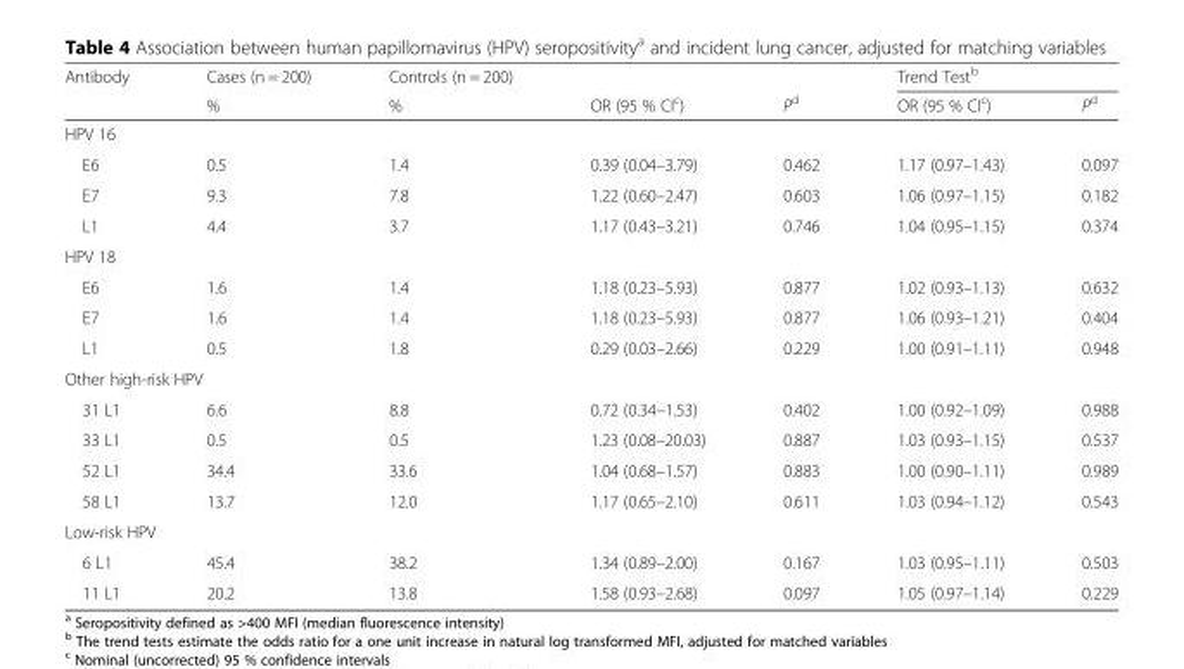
<table><thead><tr><td rowspan="2">Antibody</td><td rowspan="2">Cases (n = 200) %</td><td rowspan="2">Controls (n = 200) %</td><td rowspan="2">OR (95 % CI<sup>c</sup>)</td><td rowspan="2">P<sup>d</sup></td><td colspan="2">Trend Test<sup>b</sup></td></tr><tr><td>OR (95 % CI<sup>c</sup>)</td><td>P<sup>d</sup></td></tr></thead><tbody><tr><td colspan="7">HPV 16</td></tr><tr><td>E6</td><td>0.5</td><td>1.4</td><td>0.39 (0.04–3.79)</td><td>0.462</td><td>1.17 (0.97–1.43)</td><td>0.097</td></tr><tr><td>E7</td><td>9.3</td><td>7.8</td><td>1.22 (0.60–2.47)</td><td>0.603</td><td>1.06 (0.97–1.15)</td><td>0.182</td></tr><tr><td>L1</td><td>4.4</td><td>3.7</td><td>1.17 (0.43–3.21)</td><td>0.746</td><td>1.04 (0.95–1.15)</td><td>0.374</td></tr><tr><td colspan="7">HPV 18</td></tr><tr><td>E6</td><td>1.6</td><td>1.4</td><td>1.18 (0.23–5.93)</td><td>0.877</td><td>1.02 (0.93–1.13)</td><td>0.632</td></tr><tr><td>E7</td><td>1.6</td><td>1.4</td><td>1.18 (0.23–5.93)</td><td>0.877</td><td>1.06 (0.93–1.21)</td><td>0.404</td></tr><tr><td>L1</td><td>0.5</td><td>1.8</td><td>0.29 (0.03–2.66)</td><td>0.229</td><td>1.00 (0.91–1.11)</td><td>0.948</td></tr><tr><td colspan="7">Other high-risk HPV</td></tr><tr><td>31 L1</td><td>6.6</td><td>8.8</td><td>0.72 (0.34–1.53)</td><td>0.402</td><td>1.00 (0.92–1.09)</td><td>0.988</td></tr><tr><td>33 L1</td><td>0.5</td><td>0.5</td><td>1.23 (0.08–20.03)</td><td>0.887</td><td>1.03 (0.93–1.15)</td><td>0.537</td></tr><tr><td>52 L1</td><td>34.4</td><td>33.6</td><td>1.04 (0.68–1.57)</td><td>0.883</td><td>1.00 (0.90–1.11)</td><td>0.989</td></tr><tr><td>58 L1</td><td>13.7</td><td>12.0</td><td>1.17 (0.65–2.10)</td><td>0.611</td><td>1.03 (0.94–1.12)</td><td>0.543</td></tr><tr><td colspan="7">Low-risk HPV</td></tr><tr><td>6 L1</td><td>45.4</td><td>38.2</td><td>1.34 (0.89–2.00)</td><td>0.167</td><td>1.03 (0.95–1.11)</td><td>0.503</td></tr><tr><td>11 L1</td><td>20.2</td><td>13.8</td><td>1.58 (0.93–2.68)</td><td>0.097</td><td>1.05 (0.97–1.14)</td><td>0.229</td></tr></tbody></table>